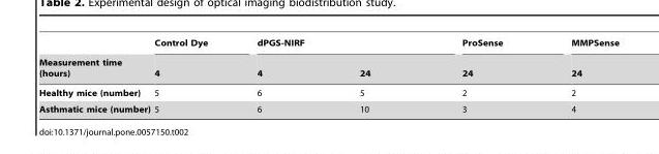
<table><thead><tr><td rowspan="2">Measurement time (hours)</td><td rowspan="2">Control Dye 4</td><td colspan="2">dPGS-NIRF</td><td rowspan="2">ProSense 24</td><td rowspan="2">MMPSense 24</td></tr><tr><td>4</td><td>24</td></tr></thead><tbody><tr><td>Healthy mice (number)</td><td>5</td><td>6</td><td>5</td><td>2</td><td>2</td></tr><tr><td>Asthmatic mice (number)</td><td>5</td><td>6</td><td>10</td><td>3</td><td>4</td></tr></tbody></table>